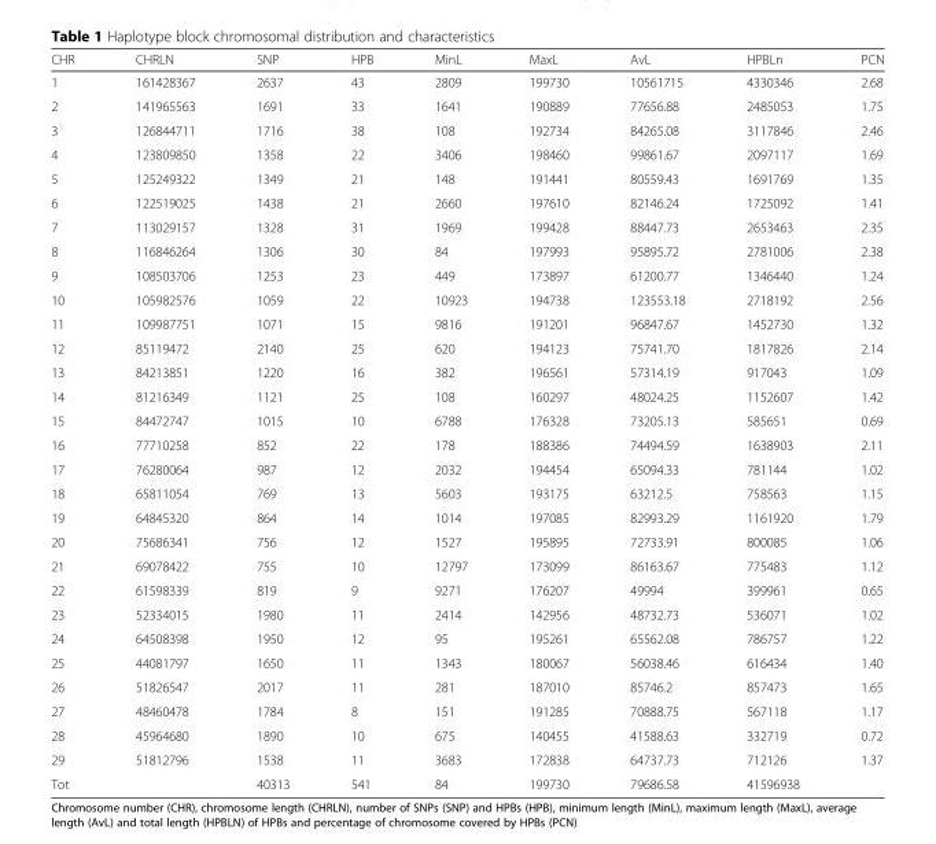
<table><thead><tr><td>CHR</td><td>CHRLN</td><td>SNP</td><td>HPB</td><td>MinL</td><td>MaxL</td><td>AvL</td><td>HPBLn</td><td>PCN</td></tr></thead><tbody><tr><td>1</td><td>161428367</td><td>2637</td><td>43</td><td>2809</td><td>199730</td><td>10561715</td><td>4330346</td><td>2.68</td></tr><tr><td>2</td><td>141965563</td><td>1691</td><td>33</td><td>1641</td><td>190889</td><td>77656.88</td><td>2485053</td><td>1.75</td></tr><tr><td>3</td><td>126844711</td><td>1716</td><td>38</td><td>108</td><td>192734</td><td>84265.08</td><td>3117846</td><td>2.46</td></tr><tr><td>4</td><td>123809850</td><td>1358</td><td>22</td><td>3406</td><td>198460</td><td>99861.67</td><td>2097117</td><td>1.69</td></tr><tr><td>5</td><td>125249322</td><td>1349</td><td>21</td><td>148</td><td>191441</td><td>80559.43</td><td>1691769</td><td>1.35</td></tr><tr><td>6</td><td>122519025</td><td>1438</td><td>21</td><td>2660</td><td>197610</td><td>82146.24</td><td>1725092</td><td>1.41</td></tr><tr><td>7</td><td>113029157</td><td>1328</td><td>31</td><td>1969</td><td>199428</td><td>88447.73</td><td>2653463</td><td>2.35</td></tr><tr><td>8</td><td>116846264</td><td>1306</td><td>30</td><td>84</td><td>197993</td><td>95895.72</td><td>2781006</td><td>2.38</td></tr><tr><td>9</td><td>108503706</td><td>1253</td><td>23</td><td>449</td><td>173897</td><td>61200.77</td><td>1346440</td><td>1.24</td></tr><tr><td>10</td><td>105982576</td><td>1059</td><td>22</td><td>10923</td><td>194738</td><td>123553.18</td><td>2718192</td><td>2.56</td></tr><tr><td>11</td><td>109987751</td><td>1071</td><td>15</td><td>9816</td><td>191201</td><td>96847.67</td><td>1452730</td><td>1.32</td></tr><tr><td>12</td><td>85119472</td><td>2140</td><td>25</td><td>620</td><td>194123</td><td>75741.70</td><td>1817826</td><td>2.14</td></tr><tr><td>13</td><td>84213851</td><td>1220</td><td>16</td><td>382</td><td>196561</td><td>57314.19</td><td>917043</td><td>1.09</td></tr><tr><td>14</td><td>81216349</td><td>1121</td><td>25</td><td>108</td><td>160297</td><td>48024.25</td><td>1152607</td><td>1.42</td></tr><tr><td>15</td><td>84472747</td><td>1015</td><td>10</td><td>6788</td><td>176328</td><td>73205.13</td><td>585651</td><td>0.69</td></tr><tr><td>16</td><td>77710258</td><td>852</td><td>22</td><td>178</td><td>188386</td><td>74494.59</td><td>1638903</td><td>2.11</td></tr><tr><td>17</td><td>76280064</td><td>987</td><td>12</td><td>2032</td><td>194454</td><td>65094.33</td><td>781144</td><td>1.02</td></tr><tr><td>18</td><td>65811054</td><td>769</td><td>13</td><td>5603</td><td>193175</td><td>63212.5</td><td>758563</td><td>1.15</td></tr><tr><td>19</td><td>64845320</td><td>864</td><td>14</td><td>1014</td><td>197085</td><td>82993.29</td><td>1161920</td><td>1.79</td></tr><tr><td>20</td><td>75686341</td><td>756</td><td>12</td><td>1527</td><td>195895</td><td>72733.91</td><td>800085</td><td>1.06</td></tr><tr><td>21</td><td>69078422</td><td>755</td><td>10</td><td>12797</td><td>173099</td><td>86163.67</td><td>775483</td><td>1.12</td></tr><tr><td>22</td><td>61598339</td><td>819</td><td>9</td><td>9271</td><td>176207</td><td>49994</td><td>399961</td><td>0.65</td></tr><tr><td>23</td><td>52334015</td><td>1980</td><td>11</td><td>2414</td><td>142956</td><td>48732.73</td><td>536071</td><td>1.02</td></tr><tr><td>24</td><td>64508398</td><td>1950</td><td>12</td><td>95</td><td>195261</td><td>65562.08</td><td>786757</td><td>1.22</td></tr><tr><td>25</td><td>44081797</td><td>1650</td><td>11</td><td>1343</td><td>180067</td><td>56038.46</td><td>616434</td><td>1.40</td></tr><tr><td>26</td><td>51826547</td><td>2017</td><td>11</td><td>281</td><td>187010</td><td>85746.2</td><td>857473</td><td>1.65</td></tr><tr><td>27</td><td>48460478</td><td>1784</td><td>8</td><td>151</td><td>191285</td><td>70888.75</td><td>567118</td><td>1.17</td></tr><tr><td>28</td><td>45964680</td><td>1890</td><td>10</td><td>675</td><td>140455</td><td>41588.63</td><td>332719</td><td>0.72</td></tr><tr><td>29</td><td>51812796</td><td>1538</td><td>11</td><td>3683</td><td>172838</td><td>64737.73</td><td>712126</td><td>1.37</td></tr><tr><td>Tot</td><td></td><td>40313</td><td>541</td><td>84</td><td>199730</td><td>79686.58</td><td>41596938</td><td></td></tr></tbody></table>